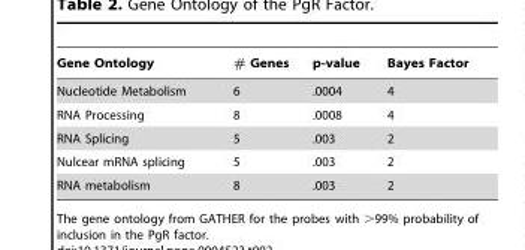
<table><thead><tr><td>Gene Ontology</td><td># Genes</td><td>p-value</td><td>Bayes Factor</td></tr></thead><tbody><tr><td>Nucleotide Metabolism</td><td>6</td><td>.0004</td><td>4</td></tr><tr><td>RNA Processing</td><td>8</td><td>.0008</td><td>4</td></tr><tr><td>RNA Splicing</td><td>5</td><td>.003</td><td>2</td></tr><tr><td>Nulcear mRNA splicing</td><td>5</td><td>.003</td><td>2</td></tr><tr><td>RNA metabolism</td><td>8</td><td>.003</td><td>2</td></tr></tbody></table>